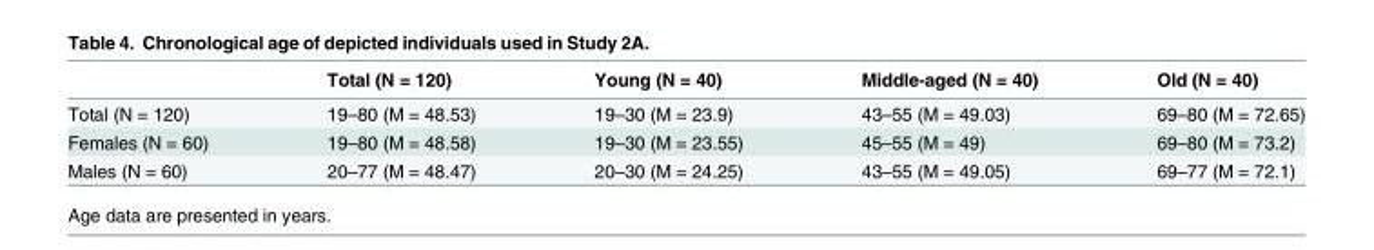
<table><thead><tr><td></td><td>Total (N = 120)</td><td>Young (N = 40)</td><td>Middle-aged (N = 40)</td><td>Old (N = 40)</td></tr></thead><tbody><tr><td>Total (N = 120)</td><td>19–80 (M = 48.53)</td><td>19–30 (M = 23.9)</td><td>43–55 (M = 49.03)</td><td>69–80 (M = 72.65)</td></tr><tr><td>Females (N = 60)</td><td>19–80 (M = 48.58)</td><td>19–30 (M = 23.55)</td><td>45–55 (M = 49)</td><td>69–80 (M = 73.2)</td></tr><tr><td>Males (N = 60)</td><td>20–77 (M = 48.47)</td><td>20–30 (M = 24.25)</td><td>43–55 (M = 49.05)</td><td>69–77 (M = 72.1)</td></tr></tbody></table>